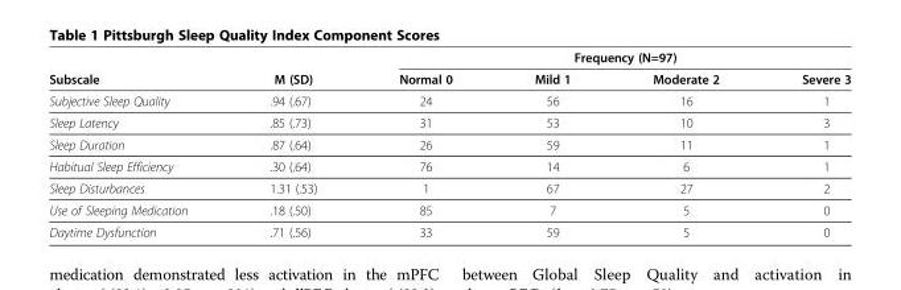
<table><thead><tr><td rowspan="2">Subscale</td><td rowspan="2">M (SD)</td><td colspan="4">Frequency (N=97)</td></tr><tr><td>Normal 0</td><td>Mild 1</td><td>Moderate 2</td><td>Severe 3</td></tr></thead><tbody><tr><td>Subjective Sleep Quality</td><td>.94 (.67)</td><td>24</td><td>56</td><td>16</td><td>1</td></tr><tr><td>Sleep Latency</td><td>.85 (.73)</td><td>31</td><td>53</td><td>10</td><td>3</td></tr><tr><td>Sleep Duration</td><td>.87 (.64)</td><td>26</td><td>59</td><td>11</td><td>1</td></tr><tr><td>Habitual Sleep Efficiency</td><td>.30 (.64)</td><td>76</td><td>14</td><td>6</td><td>1</td></tr><tr><td>Sleep Disturbances</td><td>1.31 (.53)</td><td>1</td><td>67</td><td>27</td><td>2</td></tr><tr><td>Use of Sleeping Medication</td><td>.18 (.50)</td><td>85</td><td>7</td><td>5</td><td>0</td></tr><tr><td>Daytime Dysfunction</td><td>.71 (.56)</td><td>33</td><td>59</td><td>5</td><td>0</td></tr></tbody></table>